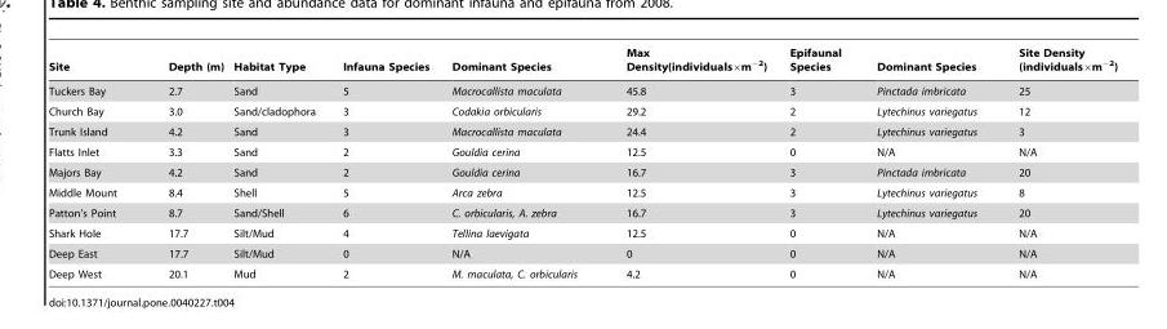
<table><thead><tr><td>Site</td><td>Depth (m)</td><td>Habitat Type</td><td>Infauna Species</td><td>Dominant Species</td><td>Max Density(individuals×m<sup>−2</sup>)</td><td>Epifaunal Species</td><td>Dominant Species</td><td>Site Density (individuals×m<sup>−2</sup>)</td></tr></thead><tbody><tr><td>Tuckers Bay</td><td>2.7</td><td>Sand</td><td>5</td><td>Macrocallista maculata</td><td>45.8</td><td>3</td><td>Pinctada imbricata</td><td>25</td></tr><tr><td>Church Bay</td><td>3.0</td><td>Sand/cladophora</td><td>3</td><td>Codakia orbicularis</td><td>29.2</td><td>2</td><td>Lytechinus variegatus</td><td>12</td></tr><tr><td>Trunk Island</td><td>4.2</td><td>Sand</td><td>3</td><td>Macrocallista maculata</td><td>24.4</td><td>2</td><td>Lytechinus variegatus</td><td>3</td></tr><tr><td>Flatts Inlet</td><td>3.3</td><td>Sand</td><td>2</td><td>Gouldia cerina</td><td>12.5</td><td>0</td><td>N/A</td><td>N/A</td></tr><tr><td>Majors Bay</td><td>4.2</td><td>Sand</td><td>2</td><td>Gouldia cerina</td><td>16.7</td><td>3</td><td>Pinctada imbricata</td><td>20</td></tr><tr><td>Middle Mount</td><td>8.4</td><td>Shell</td><td>5</td><td>Arca zebra</td><td>12.5</td><td>3</td><td>Lytechinus variegatus</td><td>8</td></tr><tr><td>Patton’s Point</td><td>8.7</td><td>Sand/Shell</td><td>6</td><td>C. orbicularis, A. zebra</td><td>16.7</td><td>3</td><td>Lytechinus variegatus</td><td>20</td></tr><tr><td>Shark Hole</td><td>17.7</td><td>Silt/Mud</td><td>4</td><td>Tellina laevigata</td><td>12.5</td><td>0</td><td>N/A</td><td>N/A</td></tr><tr><td>Deep East</td><td>17.7</td><td>Silt/Mud</td><td>0</td><td>N/A</td><td>0</td><td>0</td><td>N/A</td><td>N/A</td></tr><tr><td>Deep West</td><td>20.1</td><td>Mud</td><td>2</td><td>M. maculata, C. orbicularis</td><td>4.2</td><td>0</td><td>N/A</td><td>N/A</td></tr></tbody></table>